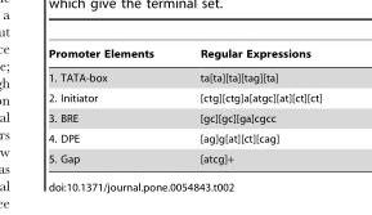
<table><thead><tr><td>Promoter Elements</td><td>Regular Expressions</td></tr></thead><tbody><tr><td>1. TATA-box</td><td>ta[ta][ta][tag][ta]</td></tr><tr><td>2. Initiator</td><td>[ctg][ctg]a[atgc][at][ct][ct]</td></tr><tr><td>3. BRE</td><td>[gc][gc][ga]cgcc</td></tr><tr><td>4. DPE</td><td>[ag]g[at][ct][cag]</td></tr><tr><td>5. Gap</td><td>[atcg]+</td></tr></tbody></table>